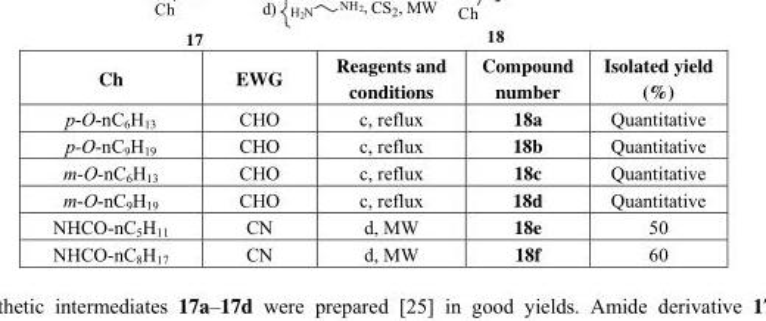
<table><thead><tr><td>Ch</td><td>EWG</td><td>Reagents and conditions</td><td>Compound number</td><td>Isolated yield (%)</td></tr></thead><tbody><tr><td>p-O-nC<sub>6</sub>H<sub>13</sub></td><td>CHO</td><td>c, reflux</td><td>18a</td><td>Quantitative</td></tr><tr><td>p-O-nC<sub>9</sub>H<sub>19</sub></td><td>CHO</td><td>c, reflux</td><td>18b</td><td>Quantitative</td></tr><tr><td>m-O-nC<sub>6</sub>H<sub>13</sub></td><td>CHO</td><td>c, reflux</td><td>18c</td><td>Quantitative</td></tr><tr><td>m-O-nC<sub>9</sub>H<sub>19</sub></td><td>CHO</td><td>c, reflux</td><td>18d</td><td>Quantitative</td></tr><tr><td>NHCO-nC<sub>5</sub>H<sub>11</sub></td><td>CN</td><td>d, MW</td><td>18e</td><td>50</td></tr><tr><td>NHCO-nC<sub>8</sub>H<sub>17</sub></td><td>CN</td><td>d, MW</td><td>18f</td><td>60</td></tr></tbody></table>